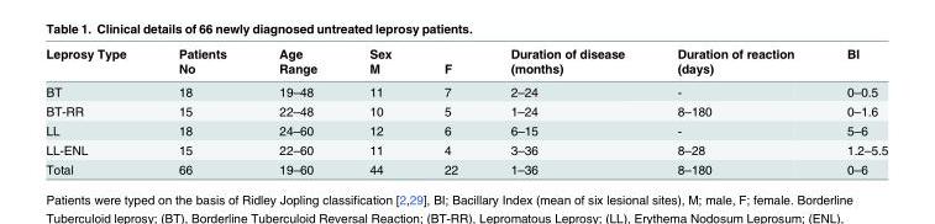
<table><thead><tr><td rowspan="2">Leprosy Type</td><td rowspan="2">Patients No</td><td rowspan="2">Age Range</td><td rowspan="2">Sex M</td><td rowspan="2">F</td><td rowspan="2">Duration of disease (months)</td><td rowspan="2">Duration of reaction (days)</td><td rowspan="2">BI</td></tr><tr></tr></thead><tbody><tr><td>BT</td><td>18</td><td>19–48</td><td>11</td><td>7</td><td>2–24</td><td>-</td><td>0–0.5</td></tr><tr><td>BT-RR</td><td>15</td><td>22–48</td><td>10</td><td>5</td><td>1–24</td><td>8–180</td><td>0–1.6</td></tr><tr><td>LL</td><td>18</td><td>24–60</td><td>12</td><td>6</td><td>6–15</td><td>-</td><td>5–6</td></tr><tr><td>LL-ENL</td><td>15</td><td>22–60</td><td>11</td><td>4</td><td>3–36</td><td>8–28</td><td>1.2–5.5</td></tr><tr><td>Total</td><td>66</td><td>19–60</td><td>44</td><td>22</td><td>1–36</td><td>8–180</td><td>0–6</td></tr></tbody></table>